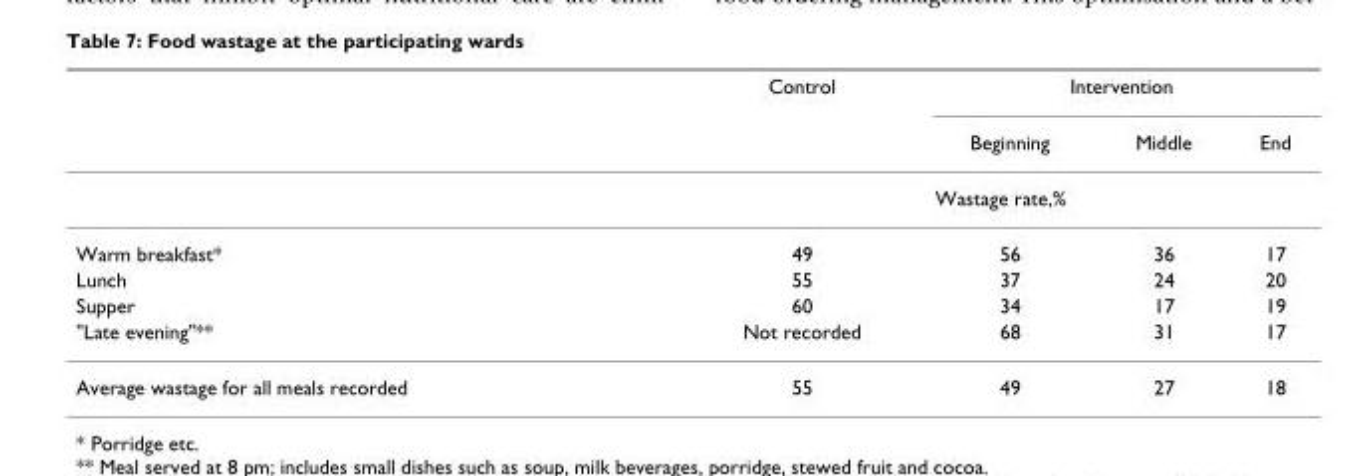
<table><thead><tr><td rowspan="2"></td><td rowspan="2">Control</td><td colspan="3">Intervention</td></tr><tr><td>Beginning</td><td>Middle</td><td>End</td></tr></thead><tbody><tr><td></td><td colspan="4">Wastage rate,%</td></tr><tr><td>Warm breakfast*</td><td>49</td><td>56</td><td>36</td><td>17</td></tr><tr><td>Lunch</td><td>55</td><td>37</td><td>24</td><td>20</td></tr><tr><td>Supper</td><td>60</td><td>34</td><td>17</td><td>19</td></tr><tr><td>&quot;Late evening&quot;**</td><td>Not recorded</td><td>68</td><td>31</td><td>17</td></tr><tr><td>Average wastage for all meals recorded</td><td>55</td><td>49</td><td>27</td><td>18</td></tr></tbody></table>